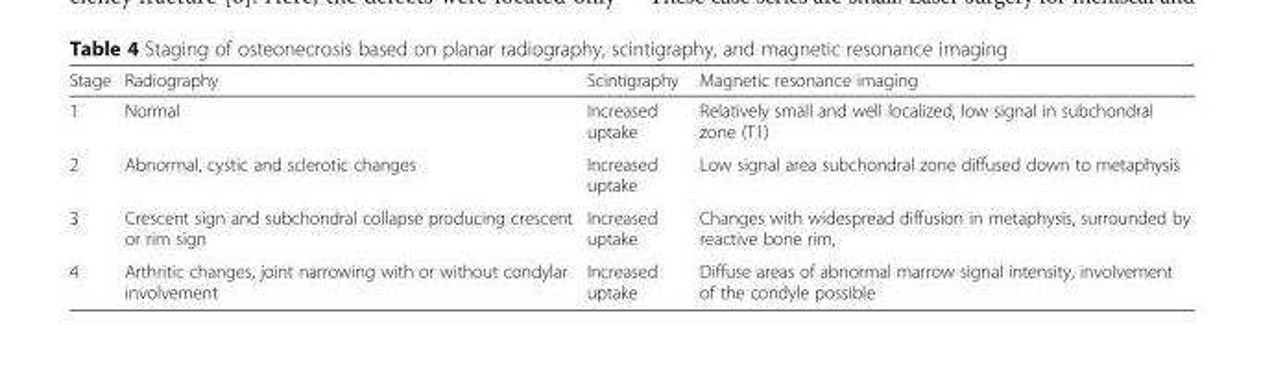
<table><thead><tr><td>Stage</td><td>Radiography</td><td>Scintigraphy</td><td>Magnetic resonance imaging</td></tr></thead><tbody><tr><td>1</td><td>Normal</td><td>Increased uptake</td><td>Relatively small and well localized, low signal in subchondral zone (T1)</td></tr><tr><td>2</td><td>Abnormal, cystic and sclerotic changes</td><td>Increased uptake</td><td>Low signal area subchondral zone diffused down to metaphysis</td></tr><tr><td>3</td><td>Crescent sign and subchondral collapse producing crescent or rim sign</td><td>Increased uptake</td><td>Changes with widespread diffusion in metaphysis, surrounded by reactive bone rim,</td></tr><tr><td>4</td><td>Arthritic changes, joint narrowing with or without condylar involvement</td><td>Increased uptake</td><td>Diffuse areas of abnormal marrow signal intensity, involvement of the condyle possible</td></tr></tbody></table>